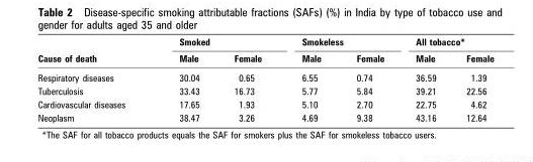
<table><thead><tr><td rowspan="2">Cause of death</td><td colspan="2">Smoked</td><td colspan="2">Smokeless</td><td colspan="2">All tobacco*</td></tr><tr><td>Male</td><td>Female</td><td>Male</td><td>Female</td><td>Male</td><td>Female</td></tr></thead><tbody><tr><td>Respiratory diseases</td><td>30.04</td><td>0.65</td><td>6.55</td><td>0.74</td><td>36.59</td><td>1.39</td></tr><tr><td>Tuberculosis</td><td>33.43</td><td>16.73</td><td>5.77</td><td>5.84</td><td>39.21</td><td>22.56</td></tr><tr><td>Cardiovascular diseases</td><td>17.65</td><td>1.93</td><td>5.10</td><td>2.70</td><td>22.75</td><td>4.62</td></tr><tr><td>Neoplasm</td><td>38.47</td><td>3.26</td><td>4.69</td><td>9.38</td><td>43.16</td><td>12.64</td></tr></tbody></table>